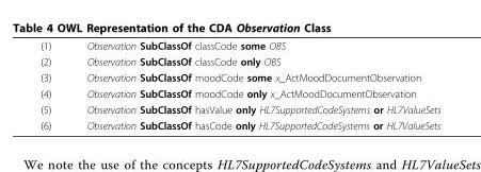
<table><tbody><tr><td>(1)</td><td>Observation SubClassOf classCode some OBS</td></tr><tr><td>(2)</td><td>Observation SubClassOf classCode only OBS</td></tr><tr><td>(3)</td><td>Observation SubClassOf moodCode some x_ActMoodDocumentObservation</td></tr><tr><td>(4)</td><td>Observation SubClassOf moodCode only x_ActMoodDocumentObservation</td></tr><tr><td>(5)</td><td>Observation SubClassOf hasValue only HL7SupportedCodeSystems or HL7ValueSets</td></tr><tr><td>(6)</td><td>Observation SubClassOf hasCode only HL7SupportedCodeSystems or HL7ValueSets</td></tr></tbody></table>